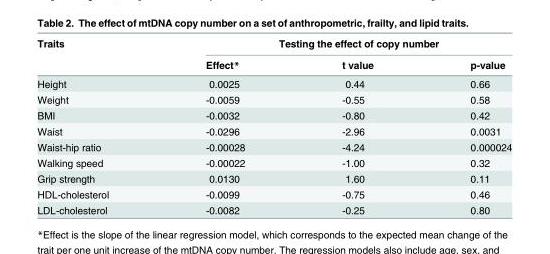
<table><thead><tr><td rowspan="2">Traits</td><td colspan="3">Testing the effect of copy number</td></tr><tr><td>Effect*</td><td>t value</td><td>p-value</td></tr></thead><tbody><tr><td>Height</td><td>0.0025</td><td>0.44</td><td>0.66</td></tr><tr><td>Weight</td><td>-0.0059</td><td>-0.55</td><td>0.58</td></tr><tr><td>BMI</td><td>-0.0032</td><td>-0.80</td><td>0.42</td></tr><tr><td>Waist</td><td>-0.0296</td><td>-2.96</td><td>0.0031</td></tr><tr><td>Waist-hip ratio</td><td>-0.00028</td><td>-4.24</td><td>0.000024</td></tr><tr><td>Walking speed</td><td>-0.00022</td><td>-1.00</td><td>0.32</td></tr><tr><td>Grip strength</td><td>0.0130</td><td>1.60</td><td>0.11</td></tr><tr><td>HDL-cholesterol</td><td>-0.0099</td><td>-0.75</td><td>0.46</td></tr><tr><td>LDL-cholesterol</td><td>-0.0082</td><td>-0.25</td><td>0.80</td></tr></tbody></table>